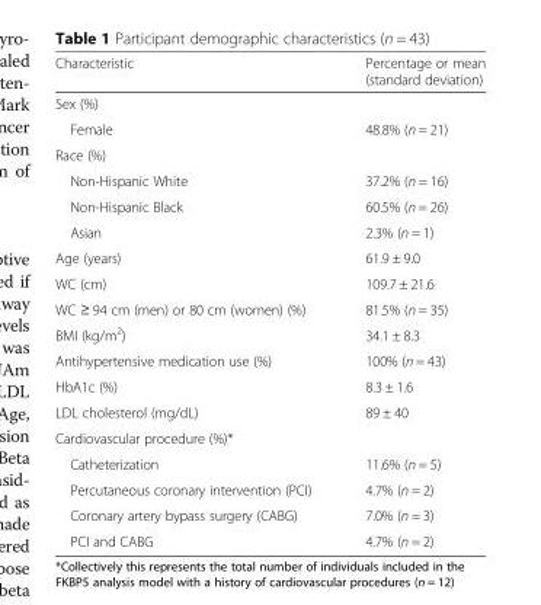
<table><thead><tr><td>Characteristic</td><td>Percentage or mean (standard deviation)</td></tr></thead><tbody><tr><td colspan="2">Sex (%)</td></tr><tr><td>Female</td><td>48.8% (n = 21)</td></tr><tr><td colspan="2">Race (%)</td></tr><tr><td>Non-Hispanic White</td><td>37.2% (n = 16)</td></tr><tr><td>Non-Hispanic Black</td><td>60.5% (n = 26)</td></tr><tr><td>Asian</td><td>2.3% (n = 1)</td></tr><tr><td>Age (years)</td><td>61.9 ± 9.0</td></tr><tr><td>WC (cm)</td><td>109.7 ± 21.6</td></tr><tr><td>WC ≥ 94 cm (men) or 80 cm (women) (%)</td><td>81.5% (n = 35)</td></tr><tr><td>BMI (kg/m<sup>2</sup>)</td><td>34.1 ± 8.3</td></tr><tr><td>Antihypertensive medication use (%)</td><td>100% (n = 43)</td></tr><tr><td>HbA1c (%)</td><td>8.3 ± 1.6</td></tr><tr><td>LDL cholesterol (mg/dL)</td><td>89 ± 40</td></tr><tr><td colspan="2">Cardiovascular procedure (%)*</td></tr><tr><td>Catheterization</td><td>11.6% (n = 5)</td></tr><tr><td>Percutaneous coronary intervention (PCI)</td><td>4.7% (n = 2)</td></tr><tr><td>Coronary artery bypass surgery (CABG)</td><td>7.0% (n = 3)</td></tr><tr><td>PCI and CABG</td><td>4.7% (n = 2)</td></tr></tbody></table>